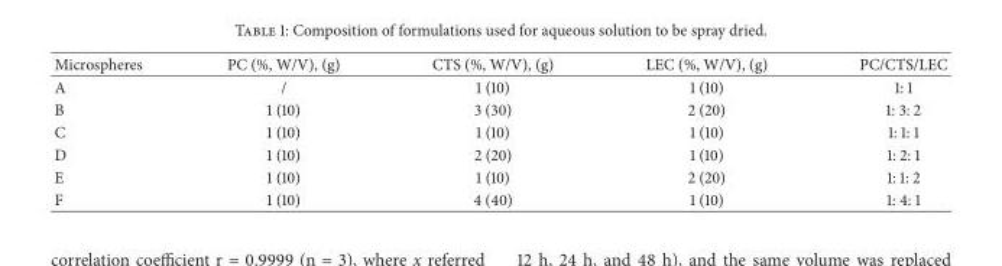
<table><thead><tr><td>Microspheres</td><td>PC (%, W/V), (g)</td><td>CTS (%, W/V), (g)</td><td>LEC (%, W/V), (g)</td><td>PC/CTS/LEC</td></tr></thead><tbody><tr><td>A</td><td>/</td><td>1 (10)</td><td>1 (10)</td><td>1: 1</td></tr><tr><td>B</td><td>1 (10)</td><td>3 (30)</td><td>2 (20)</td><td>1: 3: 2</td></tr><tr><td>C</td><td>1 (10)</td><td>1 (10)</td><td>1 (10)</td><td>1: 1: 1</td></tr><tr><td>D</td><td>1 (10)</td><td>2 (20)</td><td>1 (10)</td><td>1: 2: 1</td></tr><tr><td>E</td><td>1 (10)</td><td>1 (10)</td><td>2 (20)</td><td>1: 1: 2</td></tr><tr><td>F</td><td>1 (10)</td><td>4 (40)</td><td>1 (10)</td><td>1: 4: 1</td></tr></tbody></table>